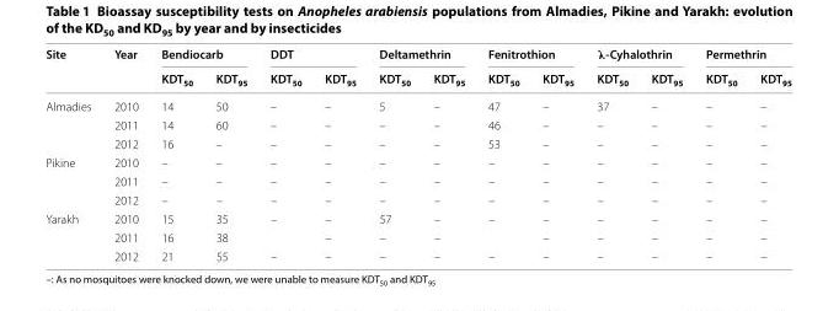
<table><thead><tr><td rowspan="2">Site</td><td rowspan="2">Year</td><td colspan="2">Bendiocarb</td><td colspan="2">DDT</td><td colspan="2">Deltamethrin</td><td colspan="2">Fenitrothion</td><td colspan="2">λ-Cyhalothrin</td><td colspan="2">Permethrin</td></tr><tr><td>KDT<sub>50</sub></td><td>KDT<sub>95</sub></td><td>KDT<sub>50</sub></td><td>KDT<sub>95</sub></td><td>KDT<sub>50</sub></td><td>KDT<sub>95</sub></td><td>KDT<sub>50</sub></td><td>KDT<sub>95</sub></td><td>KDT<sub>50</sub></td><td>KDT<sub>95</sub></td><td>KDT<sub>50</sub></td><td>KDT<sub>95</sub></td></tr></thead><tbody><tr><td rowspan="3">Almadies</td><td>2010</td><td>14</td><td>50</td><td>–</td><td>–</td><td>5</td><td>–</td><td>47</td><td>–</td><td>37</td><td>–</td><td>–</td><td>–</td></tr><tr><td>2011</td><td>14</td><td>60</td><td>–</td><td>–</td><td>–</td><td>–</td><td>46</td><td>–</td><td>–</td><td>–</td><td>–</td><td>–</td></tr><tr><td>2012</td><td>16</td><td>–</td><td>–</td><td>–</td><td>–</td><td>–</td><td>53</td><td>–</td><td>–</td><td>–</td><td>–</td><td>–</td></tr><tr><td rowspan="3">Pikine</td><td>2010</td><td>–</td><td>–</td><td>–</td><td>–</td><td>–</td><td>–</td><td>–</td><td>–</td><td>–</td><td>–</td><td>–</td><td>–</td></tr><tr><td>2011</td><td>–</td><td>–</td><td>–</td><td>–</td><td>–</td><td>–</td><td>–</td><td>–</td><td>–</td><td>–</td><td>–</td><td>–</td></tr><tr><td>2012</td><td>–</td><td>–</td><td>–</td><td>–</td><td>–</td><td>–</td><td>–</td><td>–</td><td>–</td><td>–</td><td>–</td><td>–</td></tr><tr><td rowspan="3">Yarakh</td><td>2010</td><td>15</td><td>35</td><td>–</td><td>–</td><td>57</td><td>–</td><td>–</td><td>–</td><td>–</td><td>–</td><td>–</td><td>–</td></tr><tr><td>2011</td><td>16</td><td>38</td><td></td><td>–</td><td>–</td><td>–</td><td></td><td>–</td><td>–</td><td>–</td><td>–</td><td>–</td></tr><tr><td>2012</td><td>21</td><td>55</td><td>–</td><td>–</td><td>–</td><td>–</td><td>–</td><td>–</td><td>–</td><td>–</td><td>–</td><td>–</td></tr></tbody></table>